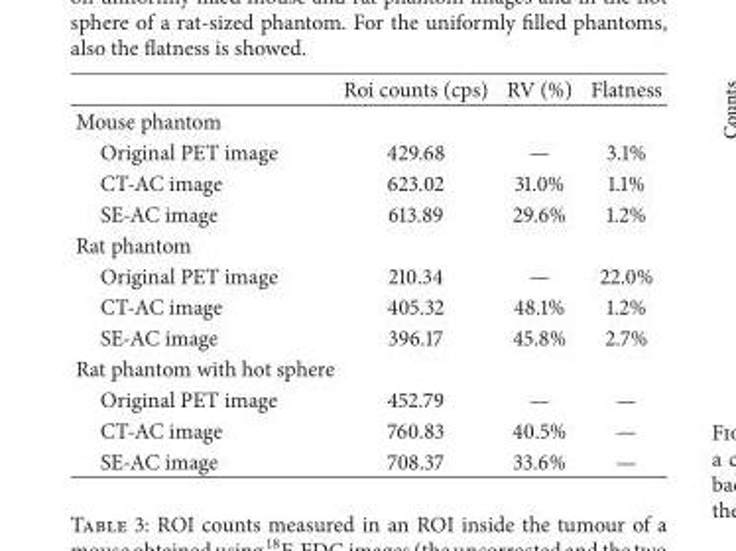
<table><thead><tr><td></td><td>Roi counts (cps)</td><td>RV (%)</td><td>Flatness</td></tr></thead><tbody><tr><td colspan="4">Mouse phantom</td></tr><tr><td>Original PET image</td><td>429.68</td><td>—</td><td>3.1%</td></tr><tr><td>CT-AC image</td><td>623.02</td><td>31.0%</td><td>1.1%</td></tr><tr><td>SE-AC image</td><td>613.89</td><td>29.6%</td><td>1.2%</td></tr><tr><td colspan="4">Rat phantom</td></tr><tr><td>Original PET image</td><td>210.34</td><td>—</td><td>22.0%</td></tr><tr><td>CT-AC image</td><td>405.32</td><td>48.1%</td><td>1.2%</td></tr><tr><td>SE-AC image</td><td>396.17</td><td>45.8%</td><td>2.7%</td></tr><tr><td colspan="4">Rat phantom with hot sphere</td></tr><tr><td>Original PET image</td><td>452.79</td><td>—</td><td>—</td></tr><tr><td>CT-AC image</td><td>760.83</td><td>40.5%</td><td>—</td></tr><tr><td>SE-AC image</td><td>708.37</td><td>33.6%</td><td>—</td></tr></tbody></table>